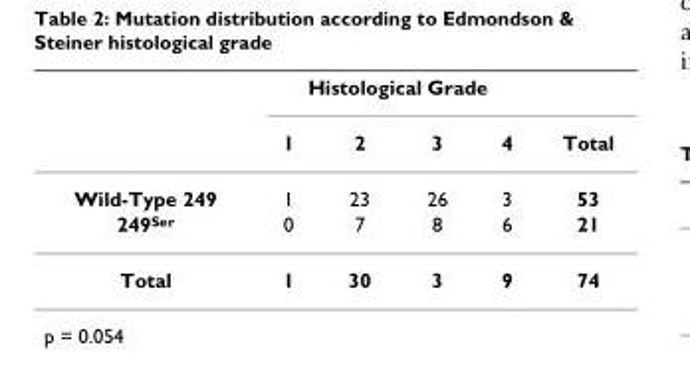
<table><thead><tr><td rowspan="2"></td><td colspan="4">Histological Grade</td><td rowspan="2">Total</td></tr><tr><td>1</td><td>2</td><td>3</td><td>4</td></tr></thead><tbody><tr><td>Wild-Type 249</td><td>1</td><td>23</td><td>26</td><td>3</td><td>53</td></tr><tr><td>249<sup>Ser</sup></td><td>0</td><td>7</td><td>8</td><td>6</td><td>21</td></tr><tr><td>Total</td><td>1</td><td>30</td><td>3</td><td>9</td><td>74</td></tr></tbody></table>